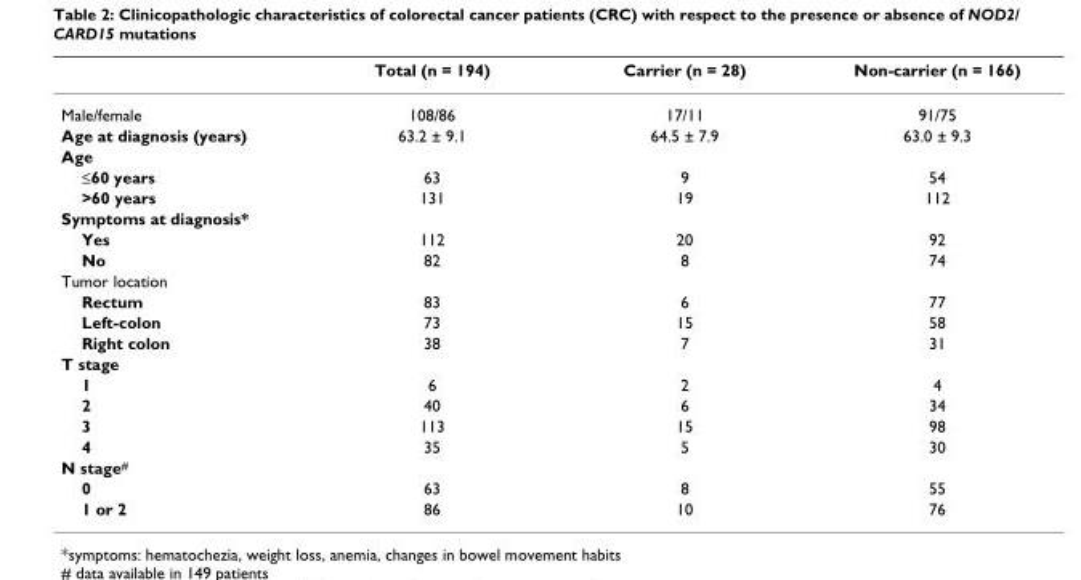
<table><thead><tr><td></td><td>Total (n = 194)</td><td>Carrier (n = 28)</td><td>Non-carrier (n = 166)</td></tr></thead><tbody><tr><td>Male/female</td><td>108/86</td><td>17/11</td><td>91/75</td></tr><tr><td>Age at diagnosis (years)</td><td>63.2 ± 9.1</td><td>64.5 ± 7.9</td><td>63.0 ± 9.3</td></tr><tr><td colspan="4">Age</td></tr><tr><td>≤60 years</td><td>63</td><td>9</td><td>54</td></tr><tr><td>&gt;60 years</td><td>131</td><td>19</td><td>112</td></tr><tr><td colspan="4">Symptoms at diagnosis*</td></tr><tr><td>Yes</td><td>112</td><td>20</td><td>92</td></tr><tr><td>No</td><td>82</td><td>8</td><td>74</td></tr><tr><td colspan="4">Tumor location</td></tr><tr><td>Rectum</td><td>83</td><td>6</td><td>77</td></tr><tr><td>Left-colon</td><td>73</td><td>15</td><td>58</td></tr><tr><td>Right colon</td><td>38</td><td>7</td><td>31</td></tr><tr><td colspan="4">T stage</td></tr><tr><td>1</td><td>6</td><td>2</td><td>4</td></tr><tr><td>2</td><td>40</td><td>6</td><td>34</td></tr><tr><td>3</td><td>113</td><td>15</td><td>98</td></tr><tr><td>4</td><td>35</td><td>5</td><td>30</td></tr><tr><td colspan="4">N stage#</td></tr><tr><td>0</td><td>63</td><td>8</td><td>55</td></tr><tr><td>1 or 2</td><td>86</td><td>10</td><td>76</td></tr></tbody></table>